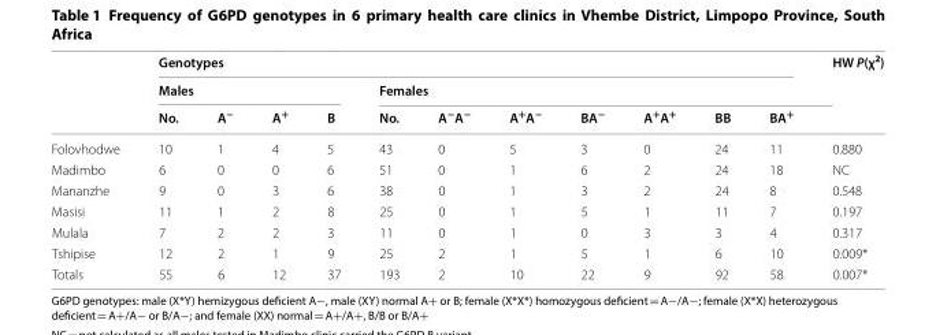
<table><thead><tr><td rowspan="3"></td><td colspan="11">Genotypes</td><td rowspan="3">HW P(χ<sup>2</sup>)</td></tr><tr><td colspan="4">Males</td><td colspan="7">Females</td></tr><tr><td>No.</td><td>A<sup>−</sup></td><td>A<sup>+</sup></td><td>B</td><td>No.</td><td>A<sup>−</sup>A<sup>−</sup></td><td>A<sup>+</sup>A<sup>−</sup></td><td>BA<sup>−</sup></td><td>A<sup>+</sup>A<sup>+</sup></td><td>BB</td><td>BA<sup>+</sup></td></tr></thead><tbody><tr><td>Folovhodwe</td><td>10</td><td>1</td><td>4</td><td>5</td><td>43</td><td>0</td><td>5</td><td>3</td><td>0</td><td>24</td><td>11</td><td>0.880</td></tr><tr><td>Madimbo</td><td>6</td><td>0</td><td>0</td><td>6</td><td>51</td><td>0</td><td>1</td><td>6</td><td>2</td><td>24</td><td>18</td><td>NC</td></tr><tr><td>Mananzhe</td><td>9</td><td>0</td><td>3</td><td>6</td><td>38</td><td>0</td><td>1</td><td>3</td><td>2</td><td>24</td><td>8</td><td>0.548</td></tr><tr><td>Masisi</td><td>11</td><td>1</td><td>2</td><td>8</td><td>25</td><td>0</td><td>1</td><td>5</td><td>1</td><td>11</td><td>7</td><td>0.197</td></tr><tr><td>Mulala</td><td>7</td><td>2</td><td>2</td><td>3</td><td>11</td><td>0</td><td>1</td><td>0</td><td>3</td><td>3</td><td>4</td><td>0.317</td></tr><tr><td>Tshipise</td><td>12</td><td>2</td><td>1</td><td>9</td><td>25</td><td>2</td><td>1</td><td>5</td><td>1</td><td>6</td><td>10</td><td>0.009*</td></tr><tr><td>Totals</td><td>55</td><td>6</td><td>12</td><td>37</td><td>193</td><td>2</td><td>10</td><td>22</td><td>9</td><td>92</td><td>58</td><td>0.007*</td></tr></tbody></table>